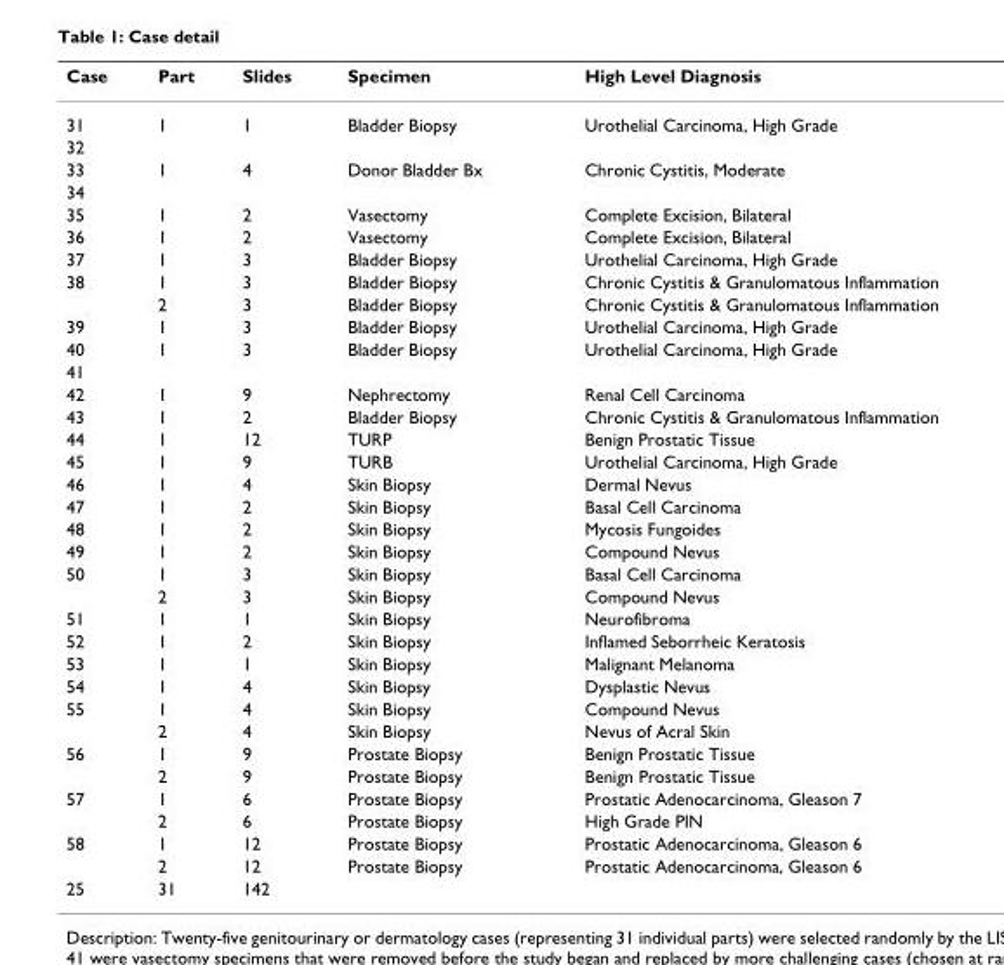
<table><thead><tr><td>Case</td><td>Part</td><td>Slides</td><td>Specimen</td><td>High Level Diagnosis</td></tr></thead><tbody><tr><td>31</td><td>1</td><td>1</td><td>Bladder Biopsy</td><td>Urothelial Carcinoma, High Grade</td></tr><tr><td colspan="5">32</td></tr><tr><td>33</td><td>1</td><td>4</td><td>Donor Bladder Bx</td><td>Chronic Cystitis, Moderate</td></tr><tr><td colspan="5">34</td></tr><tr><td>35</td><td>1</td><td>2</td><td>Vasectomy</td><td>Complete Excision, Bilateral</td></tr><tr><td>36</td><td>1</td><td>2</td><td>Vasectomy</td><td>Complete Excision, Bilateral</td></tr><tr><td>37</td><td>1</td><td>3</td><td>Bladder Biopsy</td><td>Urothelial Carcinoma, High Grade</td></tr><tr><td rowspan="2">38</td><td>1</td><td>3</td><td>Bladder Biopsy</td><td>Chronic Cystitis &amp; Granulomatous Inflammation</td></tr><tr><td>2</td><td>3</td><td>Bladder Biopsy</td><td>Chronic Cystitis &amp; Granulomatous Inflammation</td></tr><tr><td>39</td><td>1</td><td>3</td><td>Bladder Biopsy</td><td>Urothelial Carcinoma, High Grade</td></tr><tr><td>40</td><td>1</td><td>3</td><td>Bladder Biopsy</td><td>Urothelial Carcinoma, High Grade</td></tr><tr><td colspan="5">41</td></tr><tr><td>42</td><td>1</td><td>9</td><td>Nephrectomy</td><td>Renal Cell Carcinoma</td></tr><tr><td>43</td><td>1</td><td>2</td><td>Bladder Biopsy</td><td>Chronic Cystitis &amp; Granulomatous Inflammation</td></tr><tr><td>44</td><td>1</td><td>12</td><td>TURP</td><td>Benign Prostatic Tissue</td></tr><tr><td>45</td><td>1</td><td>9</td><td>TURB</td><td>Urothelial Carcinoma, High Grade</td></tr><tr><td>46</td><td>1</td><td>4</td><td>Skin Biopsy</td><td>Dermal Nevus</td></tr><tr><td>47</td><td>1</td><td>2</td><td>Skin Biopsy</td><td>Basal Cell Carcinoma</td></tr><tr><td>48</td><td>1</td><td>2</td><td>Skin Biopsy</td><td>Mycosis Fungoides</td></tr><tr><td>49</td><td>1</td><td>2</td><td>Skin Biopsy</td><td>Compound Nevus</td></tr><tr><td rowspan="2">50</td><td>1</td><td>3</td><td>Skin Biopsy</td><td>Basal Cell Carcinoma</td></tr><tr><td>2</td><td>3</td><td>Skin Biopsy</td><td>Compound Nevus</td></tr><tr><td>51</td><td>1</td><td>1</td><td>Skin Biopsy</td><td>Neurofibroma</td></tr><tr><td>52</td><td>1</td><td>2</td><td>Skin Biopsy</td><td>Inflamed Seborrheic Keratosis</td></tr><tr><td>53</td><td>1</td><td>1</td><td>Skin Biopsy</td><td>Malignant Melanoma</td></tr><tr><td>54</td><td>1</td><td>4</td><td>Skin Biopsy</td><td>Dysplastic Nevus</td></tr><tr><td rowspan="2">55</td><td>1</td><td>4</td><td>Skin Biopsy</td><td>Compound Nevus</td></tr><tr><td>2</td><td>4</td><td>Skin Biopsy</td><td>Nevus of Acral Skin</td></tr><tr><td rowspan="2">56</td><td>1</td><td>9</td><td>Prostate Biopsy</td><td>Benign Prostatic Tissue</td></tr><tr><td>2</td><td>9</td><td>Prostate Biopsy</td><td>Benign Prostatic Tissue</td></tr><tr><td rowspan="2">57</td><td>1</td><td>6</td><td>Prostate Biopsy</td><td>Prostatic Adenocarcinoma, Gleason 7</td></tr><tr><td>2</td><td>6</td><td>Prostate Biopsy</td><td>High Grade PIN</td></tr><tr><td rowspan="2">58</td><td>1</td><td>12</td><td>Prostate Biopsy</td><td>Prostatic Adenocarcinoma, Gleason 6</td></tr><tr><td>2</td><td>12</td><td>Prostate Biopsy</td><td>Prostatic Adenocarcinoma, Gleason 6</td></tr><tr><td>25</td><td>31</td><td>142</td><td></td><td></td></tr></tbody></table>